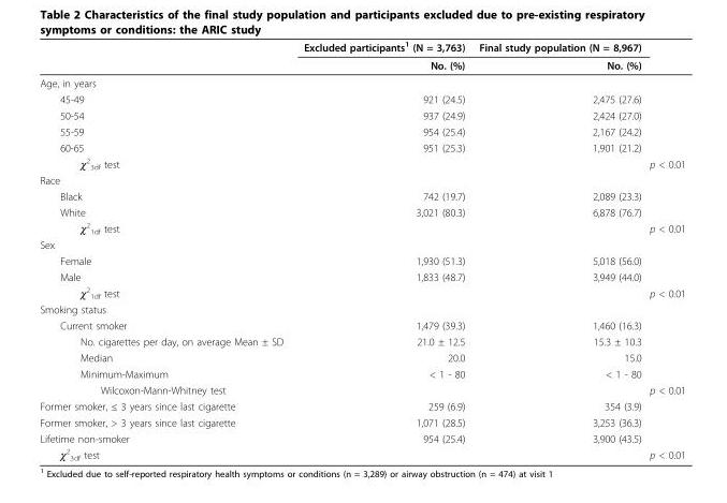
<table><thead><tr><td rowspan="2"></td><td rowspan="2">Excluded participants<sup>1</sup> (N = 3,763) No. (%)</td><td rowspan="2">Final study population (N = 8,967) No. (%)</td><td rowspan="2"></td></tr><tr></tr></thead><tbody><tr><td colspan="4">Age, in years</td></tr><tr><td>45-49</td><td>921 (24.5)</td><td>2,475 (27.6)</td><td></td></tr><tr><td>50-54</td><td>937 (24.9)</td><td>2,424 (27.0)</td><td></td></tr><tr><td>55-59</td><td>954 (25.4)</td><td>2,167 (24.2)</td><td></td></tr><tr><td>60-65</td><td>951 (25.3)</td><td>1,901 (21.2)</td><td></td></tr><tr><td>χ<sup>2</sup> <sub>3df</sub> test</td><td></td><td></td><td>p &lt; 0.01</td></tr><tr><td colspan="4">Race</td></tr><tr><td>Black</td><td>742 (19.7)</td><td>2,089 (23.3)</td><td></td></tr><tr><td>White</td><td>3,021 (80.3)</td><td>6,878 (76.7)</td><td></td></tr><tr><td>χ<sup>2</sup> <sub>1df</sub> test</td><td></td><td></td><td>p &lt; 0.01</td></tr><tr><td colspan="4">Sex</td></tr><tr><td>Female</td><td>1,930 (51.3)</td><td>5,018 (56.0)</td><td></td></tr><tr><td>Male</td><td>1,833 (48.7)</td><td>3,949 (44.0)</td><td></td></tr><tr><td>χ<sup>2</sup> <sub>1df</sub> test</td><td></td><td></td><td>p &lt; 0.01</td></tr><tr><td colspan="4">Smoking status</td></tr><tr><td>Current smoker</td><td>1,479 (39.3)</td><td>1,460 (16.3)</td><td></td></tr><tr><td>No. cigarettes per day, on average Mean ± SD</td><td>21.0 ± 12.5</td><td>15.3 ± 10.3</td><td></td></tr><tr><td>Median</td><td>20.0</td><td>15.0</td><td></td></tr><tr><td>Minimum-Maximum</td><td>&lt; 1 - 80</td><td>&lt; 1 - 80</td><td></td></tr><tr><td>Wilcoxon-Mann-Whitney test</td><td></td><td></td><td>p &lt; 0.01</td></tr><tr><td>Former smoker, ≤ 3 years since last cigarette</td><td>259 (6.9)</td><td>354 (3.9)</td><td></td></tr><tr><td>Former smoker, &gt; 3 years since last cigarette</td><td>1,071 (28.5)</td><td>3,253 (36.3)</td><td></td></tr><tr><td>Lifetime non-smoker</td><td>954 (25.4)</td><td>3,900 (43.5)</td><td></td></tr><tr><td>χ<sup>2</sup> <sub>3df</sub> test</td><td></td><td></td><td>p &lt; 0.01</td></tr></tbody></table>